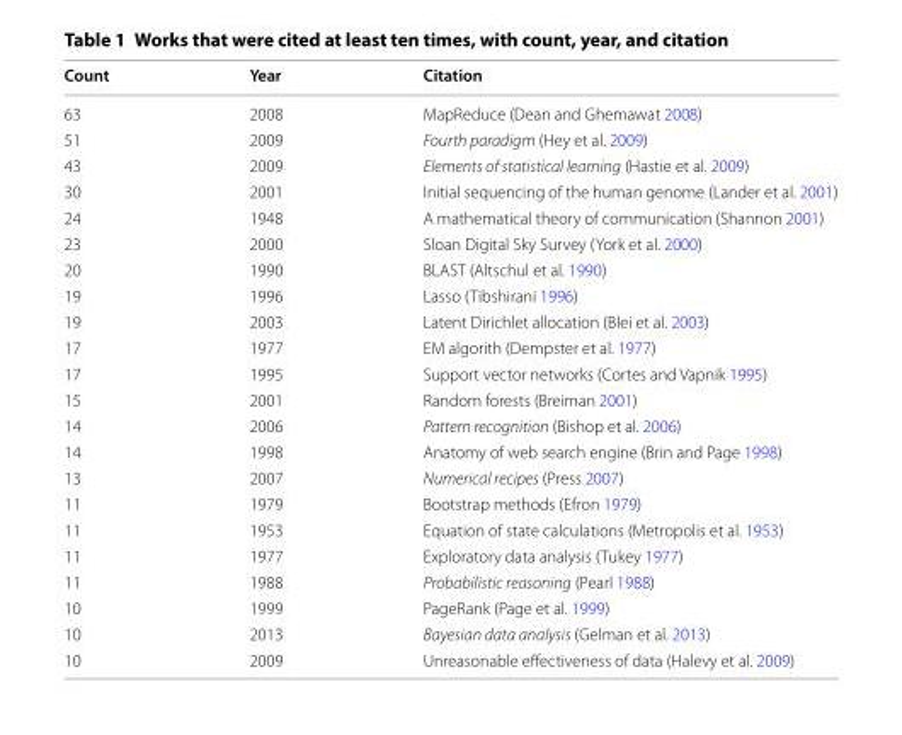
<table><thead><tr><td>Count</td><td>Year</td><td>Citation</td></tr></thead><tbody><tr><td>63</td><td>2008</td><td>MapReduce (Dean and Ghemawat 2008)</td></tr><tr><td>51</td><td>2009</td><td>Fourth paradigm (Hey et al. 2009)</td></tr><tr><td>43</td><td>2009</td><td>Elements of statistical learning (Hastie et al. 2009)</td></tr><tr><td>30</td><td>2001</td><td>Initial sequencing of the human genome (Lander et al. 2001)</td></tr><tr><td>24</td><td>1948</td><td>A mathematical theory of communication (Shannon 2001)</td></tr><tr><td>23</td><td>2000</td><td>Sloan Digital Sky Survey (York et al. 2000)</td></tr><tr><td>20</td><td>1990</td><td>BLAST (Altschul et al. 1990)</td></tr><tr><td>19</td><td>1996</td><td>Lasso (Tibshirani 1996)</td></tr><tr><td>19</td><td>2003</td><td>Latent Dirichlet allocation (Blei et al. 2003)</td></tr><tr><td>17</td><td>1977</td><td>EM algorith (Dempster et al. 1977)</td></tr><tr><td>17</td><td>1995</td><td>Support vector networks (Cortes and Vapnik 1995)</td></tr><tr><td>15</td><td>2001</td><td>Random forests (Breiman 2001)</td></tr><tr><td>14</td><td>2006</td><td>Pattern recognition (Bishop et al. 2006)</td></tr><tr><td>14</td><td>1998</td><td>Anatomy of web search engine (Brin and Page 1998)</td></tr><tr><td>13</td><td>2007</td><td>Numerical recipes (Press 2007)</td></tr><tr><td>11</td><td>1979</td><td>Bootstrap methods (Efron 1979)</td></tr><tr><td>11</td><td>1953</td><td>Equation of state calculations (Metropolis et al. 1953)</td></tr><tr><td>11</td><td>1977</td><td>Exploratory data analysis (Tukey 1977)</td></tr><tr><td>11</td><td>1988</td><td>Probabilistic reasoning (Pearl 1988)</td></tr><tr><td>10</td><td>1999</td><td>PageRank (Page et al. 1999)</td></tr><tr><td>10</td><td>2013</td><td>Bayesian data analysis (Gelman et al. 2013)</td></tr><tr><td>10</td><td>2009</td><td>Unreasonable effectiveness of data (Halevy et al. 2009)</td></tr></tbody></table>